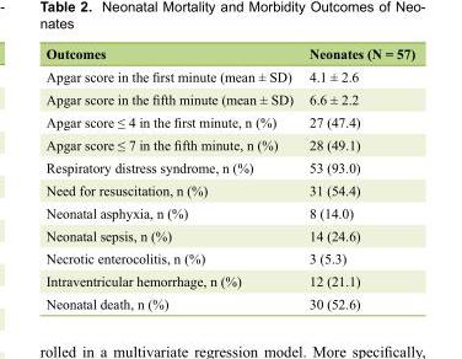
<table><thead><tr><td>Outcomes</td><td>Neonates (N = 57)</td></tr></thead><tbody><tr><td>Apgar score in the first minute (mean ± SD)</td><td>4.1 ± 2.6</td></tr><tr><td>Apgar score in the fifth minute (mean ± SD)</td><td>6.6 ± 2.2</td></tr><tr><td>Apgar score ≤ 4 in the first minute, n (%)</td><td>27 (47.4)</td></tr><tr><td>Apgar score ≤ 7 in the fifth minute, n (%)</td><td>28 (49.1)</td></tr><tr><td>Respiratory distress syndrome, n (%)</td><td>53 (93.0)</td></tr><tr><td>Need for resuscitation, n (%)</td><td>31 (54.4)</td></tr><tr><td>Neonatal asphyxia, n (%)</td><td>8 (14.0)</td></tr><tr><td>Neonatal sepsis, n (%)</td><td>14 (24.6)</td></tr><tr><td>Necrotic enterocolitis, n (%)</td><td>3 (5.3)</td></tr><tr><td>Intraventricular hemorrhage, n (%)</td><td>12 (21.1)</td></tr><tr><td>Neonatal death, n (%)</td><td>30 (52.6)</td></tr></tbody></table>